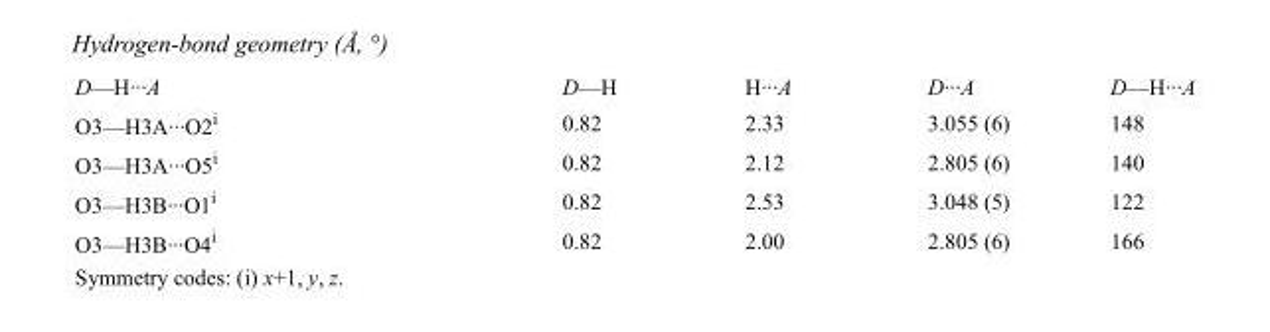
<table><tbody><tr><td>D—H···A</td><td>D—H</td><td>H···A</td><td>D···A</td><td>D—H···A</td></tr><tr><td>O3—H3A···O2<sup>i</sup></td><td>0.82</td><td>2.33</td><td>3.055 (6)</td><td>148</td></tr><tr><td>O3—H3A···O5<sup>i</sup></td><td>0.82</td><td>2.12</td><td>2.805 (6)</td><td>140</td></tr><tr><td>O3—H3B···O1<sup>i</sup></td><td>0.82</td><td>2.53</td><td>3.048 (5)</td><td>122</td></tr><tr><td>O3—H3B···O4<sup>i</sup></td><td>0.82</td><td>2.00</td><td>2.805 (6)</td><td>166</td></tr></tbody></table>